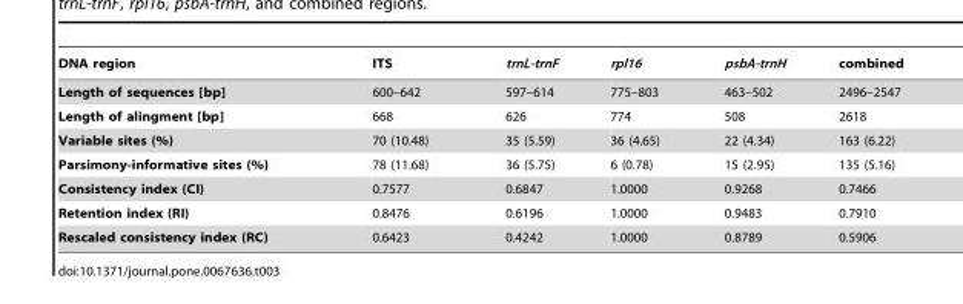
<table><thead><tr><td>DNA region</td><td>ITS</td><td>trnL-trnF</td><td>rpl16</td><td>psbA-trnH</td><td>combined</td></tr></thead><tbody><tr><td>Length of sequences [bp]</td><td>600–642</td><td>597–614</td><td>775–803</td><td>463–502</td><td>2496–2547</td></tr><tr><td>Length of alingment [bp]</td><td>668</td><td>626</td><td>774</td><td>508</td><td>2618</td></tr><tr><td>Variable sites (%)</td><td>70 (10.48)</td><td>35 (5.59)</td><td>36 (4.65)</td><td>22 (4.34)</td><td>163 (6.22)</td></tr><tr><td>Parsimony-informative sites (%)</td><td>78 (11.68)</td><td>36 (5.75)</td><td>6 (0.78)</td><td>15 (2.95)</td><td>135 (5.16)</td></tr><tr><td>Consistency index (CI)</td><td>0.7577</td><td>0.6847</td><td>1.0000</td><td>0.9268</td><td>0.7466</td></tr><tr><td>Retention index (RI)</td><td>0.8476</td><td>0.6196</td><td>1.0000</td><td>0.9483</td><td>0.7910</td></tr><tr><td>Rescaled consistency index (RC)</td><td>0.6423</td><td>0.4242</td><td>1.0000</td><td>0.8789</td><td>0.5906</td></tr></tbody></table>